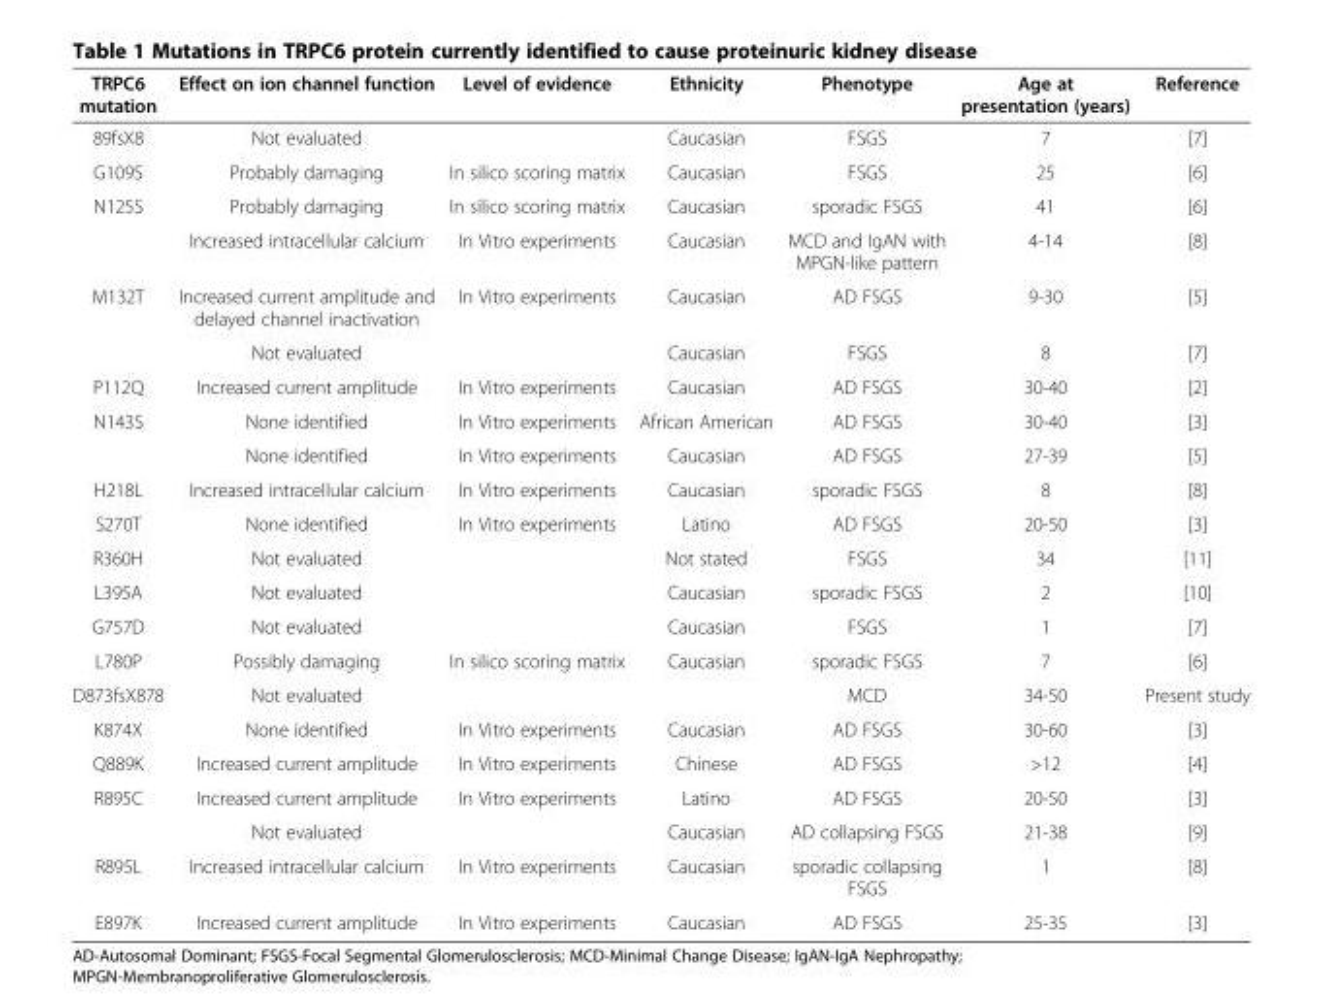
<table><thead><tr><td>TRPC6 mutation</td><td>Effect on ion channel function</td><td>Level of evidence</td><td>Ethnicity</td><td>Phenotype</td><td>Age at presentation (years)</td><td>Reference</td></tr></thead><tbody><tr><td>89fsX8</td><td>Not evaluated</td><td></td><td>Caucasian</td><td>FSGS</td><td>7</td><td>[7]</td></tr><tr><td>G109S</td><td>Probably damaging</td><td>In silico scoring matrix</td><td>Caucasian</td><td>FSGS</td><td>25</td><td>[6]</td></tr><tr><td rowspan="2">N125S</td><td>Probably damaging</td><td>In silico scoring matrix</td><td>Caucasian</td><td>sporadic FSGS</td><td>41</td><td>[6]</td></tr><tr><td>Increased intracellular calcium</td><td>In Vitro experiments</td><td>Caucasian</td><td>MCD and IgAN with MPGN-like pattern</td><td>4-14</td><td>[8]</td></tr><tr><td rowspan="2">M132T</td><td>Increased current amplitude and delayed channel inactivation</td><td>In Vitro experiments</td><td>Caucasian</td><td>AD FSGS</td><td>9-30</td><td>[5]</td></tr><tr><td>Not evaluated</td><td></td><td>Caucasian</td><td>FSGS</td><td>8</td><td>[7]</td></tr><tr><td>P112Q</td><td>Increased current amplitude</td><td>In Vitro experiments</td><td>Caucasian</td><td>AD FSGS</td><td>30-40</td><td>[2]</td></tr><tr><td rowspan="2">N143S</td><td>None identified</td><td>In Vitro experiments</td><td>African American</td><td>AD FSGS</td><td>30-40</td><td>[3]</td></tr><tr><td>None identified</td><td>In Vitro experiments</td><td>Caucasian</td><td>AD FSGS</td><td>27-39</td><td>[5]</td></tr><tr><td>H218L</td><td>Increased intracellular calcium</td><td>In Vitro experiments</td><td>Caucasian</td><td>sporadic FSGS</td><td>8</td><td>[8]</td></tr><tr><td>S270T</td><td>None identified</td><td>In Vitro experiments</td><td>Latino</td><td>AD FSGS</td><td>20-50</td><td>[3]</td></tr><tr><td>R360H</td><td>Not evaluated</td><td></td><td>Not stated</td><td>FSGS</td><td>34</td><td>[11]</td></tr><tr><td>L395A</td><td>Not evaluated</td><td></td><td>Caucasian</td><td>sporadic FSGS</td><td>2</td><td>[10]</td></tr><tr><td>G757D</td><td>Not evaluated</td><td></td><td>Caucasian</td><td>FSGS</td><td>1</td><td>[7]</td></tr><tr><td>L780P</td><td>Possibly damaging</td><td>In silico scoring matrix</td><td>Caucasian</td><td>sporadic FSGS</td><td>7</td><td>[6]</td></tr><tr><td>D873fsX878</td><td>Not evaluated</td><td></td><td></td><td>MCD</td><td>34-50</td><td>Present study</td></tr><tr><td>K874X</td><td>None identified</td><td>In Vitro experiments</td><td>Caucasian</td><td>AD FSGS</td><td>30-60</td><td>[3]</td></tr><tr><td>Q889K</td><td>Increased current amplitude</td><td>In Vitro experiments</td><td>Chinese</td><td>AD FSGS</td><td>&gt;12</td><td>[4]</td></tr><tr><td rowspan="2">R895C</td><td>Increased current amplitude</td><td>In Vitro experiments</td><td>Latino</td><td>AD FSGS</td><td>20-50</td><td>[3]</td></tr><tr><td>Not evaluated</td><td></td><td>Caucasian</td><td>AD collapsing FSGS</td><td>21-38</td><td>[9]</td></tr><tr><td>R895L</td><td>Increased intracellular calcium</td><td>In Vitro experiments</td><td>Caucasian</td><td>sporadic collapsing FSGS</td><td>1</td><td>[8]</td></tr><tr><td>E897K</td><td>Increased current amplitude</td><td>In Vitro experiments</td><td>Caucasian</td><td>AD FSGS</td><td>25-35</td><td>[3]</td></tr></tbody></table>